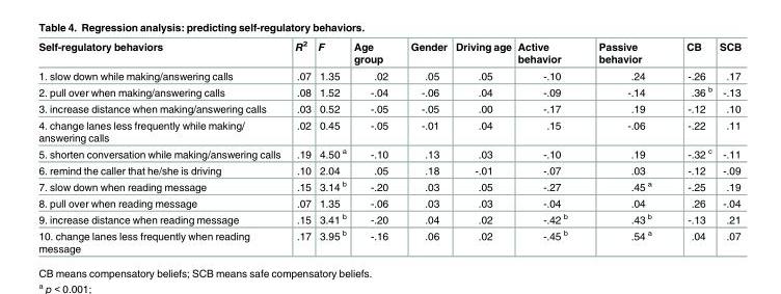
<table><thead><tr><td>Self-regulatory behaviors</td><td>R<sup>2</sup></td><td>F</td><td>Age group</td><td>Gender</td><td>Driving age</td><td>Active behavior</td><td>Passive behavior</td><td>CB</td><td>SCB</td></tr></thead><tbody><tr><td>1. slow down while making/answering calls</td><td>.07</td><td>1.35</td><td>.02</td><td>.05</td><td>.05</td><td>-.10</td><td>.24</td><td>-.26</td><td>.17</td></tr><tr><td>2. pull over when making/answering calls</td><td>.08</td><td>1.52</td><td>-.04</td><td>-.06</td><td>.04</td><td>-.09</td><td>-.14</td><td>.36 <sup>b</sup></td><td>-.13</td></tr><tr><td>3. increase distance when making/answering calls</td><td>.03</td><td>0.52</td><td>-.05</td><td>-.05</td><td>.00</td><td>-.17</td><td>.19</td><td>-.12</td><td>.10</td></tr><tr><td>4. change lanes less frequently while making/ answering calls</td><td>.02</td><td>0.45</td><td>-.05</td><td>-.01</td><td>.04</td><td>.15</td><td>-.06</td><td>-.22</td><td>.11</td></tr><tr><td>5. shorten conversation while making/answering calls</td><td>.19</td><td>4.50 <sup>a</sup></td><td>-.10</td><td>.13</td><td>.03</td><td>-.10</td><td>.19</td><td>-.32 <sup>c</sup></td><td>-.11</td></tr><tr><td>6. remind the caller that he/she is driving</td><td>.10</td><td>2.04</td><td>.05</td><td>.18</td><td>-.01</td><td>-.07</td><td>.03</td><td>-.12</td><td>-.09</td></tr><tr><td>7. slow down when reading message</td><td>.15</td><td>3.14 <sup>b</sup></td><td>-.20</td><td>.03</td><td>.05</td><td>-.27</td><td>.45 <sup>a</sup></td><td>-.25</td><td>.19</td></tr><tr><td>8. pull over when reading message</td><td>.07</td><td>1.35</td><td>-.06</td><td>.03</td><td>.03</td><td>-.04</td><td>.04</td><td>.26</td><td>-.04</td></tr><tr><td>9. increase distance when reading message</td><td>.15</td><td>3.41 <sup>b</sup></td><td>-.20</td><td>.04</td><td>.02</td><td>-.42 <sup>b</sup></td><td>.43 <sup>b</sup></td><td>-.13</td><td>.21</td></tr><tr><td>10. change lanes less frequently when reading message</td><td>.17</td><td>3.95 <sup>b</sup></td><td>-.16</td><td>.06</td><td>.02</td><td>-.45 <sup>b</sup></td><td>.54 <sup>a</sup></td><td>.04</td><td>.07</td></tr></tbody></table>